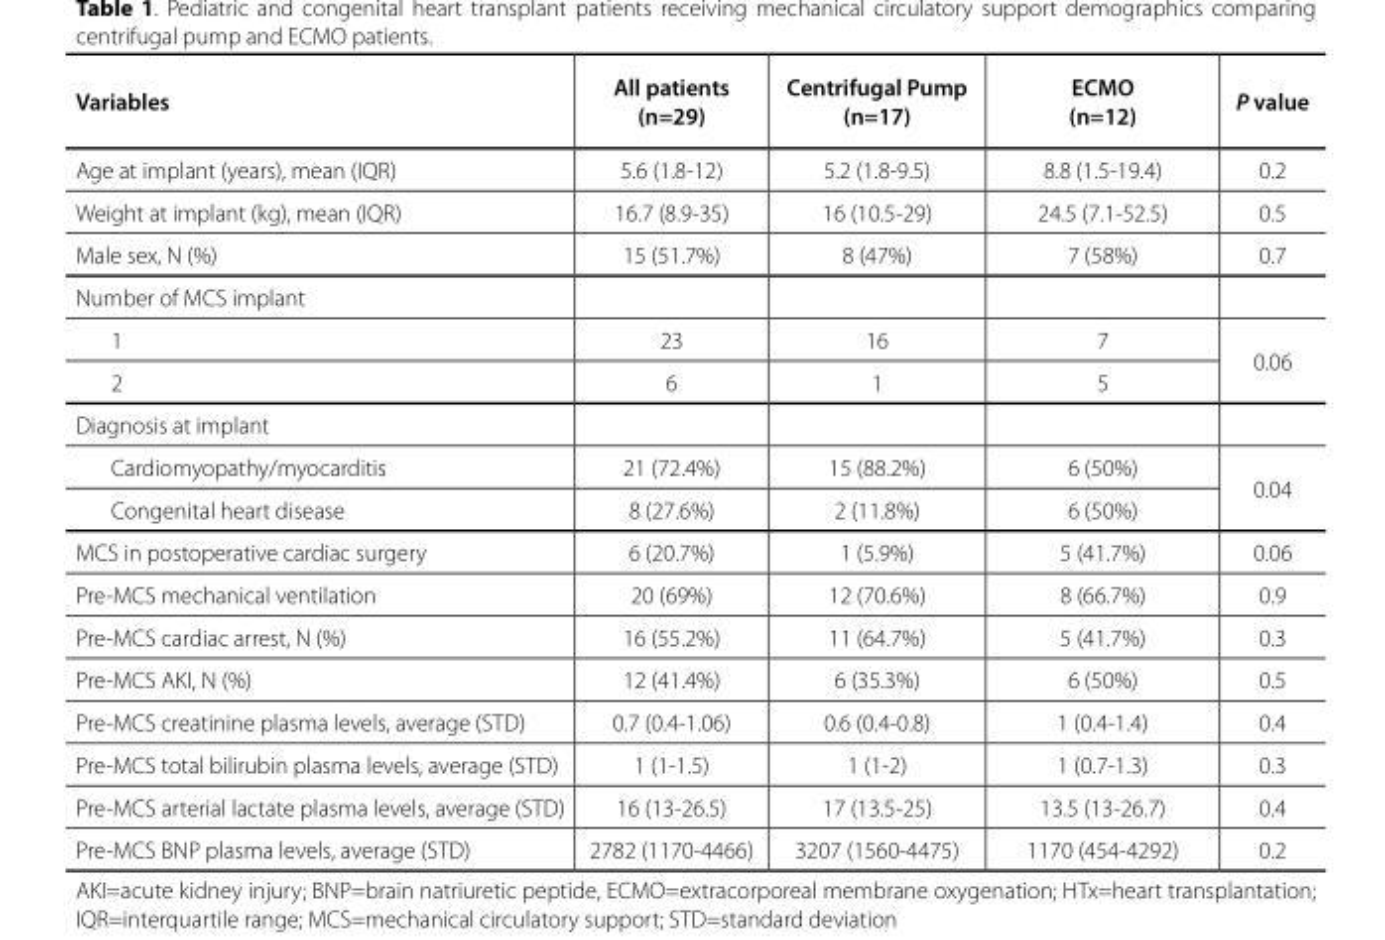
<table><thead><tr><td>Variables</td><td>All patients (n=29)</td><td>Centrifugal Pump (n=17)</td><td>ECMO (n=12)</td><td>P value</td></tr></thead><tbody><tr><td>Age at implant (years), mean (IQR)</td><td>5.6 (1.8-12)</td><td>5.2 (1.8-9.5)</td><td>8.8 (1.5-19.4)</td><td>0.2</td></tr><tr><td>Weight at implant (kg), mean (IQR)</td><td>16.7 (8.9-35)</td><td>16 (10.5-29)</td><td>24.5 (7.1-52.5)</td><td>0.5</td></tr><tr><td>Male sex, N (%)</td><td>15 (51.7%)</td><td>8 (47%)</td><td>7 (58%)</td><td>0.7</td></tr><tr><td colspan="5">Number of MCS implant</td></tr><tr><td>1</td><td>23</td><td>16</td><td>7</td><td rowspan="2">0.06</td></tr><tr><td>2</td><td>6</td><td>1</td><td>5</td></tr><tr><td colspan="5">Diagnosis at implant</td></tr><tr><td>Cardiomyopathy/myocarditis</td><td>21 (72.4%)</td><td>15 (88.2%)</td><td>6 (50%)</td><td rowspan="2">0.04</td></tr><tr><td>Congenital heart disease</td><td>8 (27.6%)</td><td>2 (11.8%)</td><td>6 (50%)</td></tr><tr><td>MCS in postoperative cardiac surgery</td><td>6 (20.7%)</td><td>1 (5.9%)</td><td>5 (41.7%)</td><td>0.06</td></tr><tr><td>Pre-MCS mechanical ventilation</td><td>20 (69%)</td><td>12 (70.6%)</td><td>8 (66.7%)</td><td>0.9</td></tr><tr><td>Pre-MCS cardiac arrest, N (%)</td><td>16 (55.2%)</td><td>11 (64.7%)</td><td>5 (41.7%)</td><td>0.3</td></tr><tr><td>Pre-MCS AKI, N (%)</td><td>12 (41.4%)</td><td>6 (35.3%)</td><td>6 (50%)</td><td>0.5</td></tr><tr><td>Pre-MCS creatinine plasma levels, average (STD)</td><td>0.7 (0.4-1.06)</td><td>0.6 (0.4-0.8)</td><td>1 (0.4-1.4)</td><td>0.4</td></tr><tr><td>Pre-MCS total bilirubin plasma levels, average (STD)</td><td>1 (1-1.5)</td><td>1 (1-2)</td><td>1 (0.7-1.3)</td><td>0.3</td></tr><tr><td>Pre-MCS arterial lactate plasma levels, average (STD)</td><td>16 (13-26.5)</td><td>17 (13.5-25)</td><td>13.5 (13-26.7)</td><td>0.4</td></tr><tr><td>Pre-MCS BNP plasma levels, average (STD)</td><td>2782 (1170-4466)</td><td>3207 (1560-4475)</td><td>1170 (454-4292)</td><td>0.2</td></tr></tbody></table>